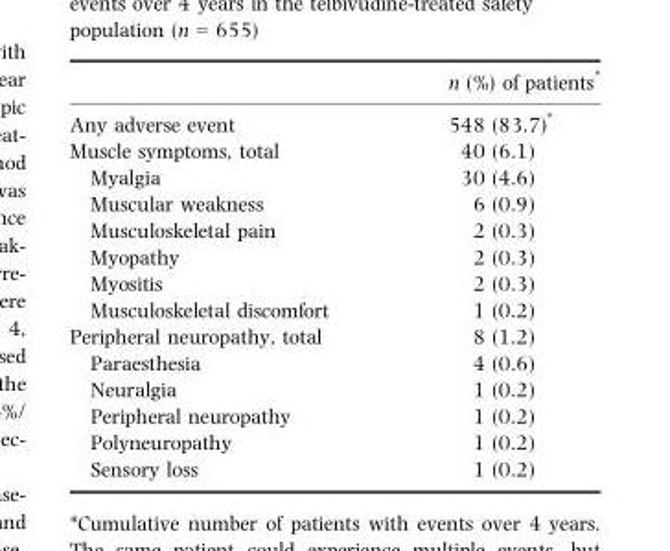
<table><thead><tr><td></td><td>n (%) of patients*</td></tr></thead><tbody><tr><td>Any adverse event</td><td>548 (83.7)*</td></tr><tr><td>Muscle symptoms, total</td><td>40 (6.1)</td></tr><tr><td>Myalgia</td><td>30 (4.6)</td></tr><tr><td>Muscular weakness</td><td>6 (0.9)</td></tr><tr><td>Musculoskeletal pain</td><td>2 (0.3)</td></tr><tr><td>Myopathy</td><td>2 (0.3)</td></tr><tr><td>Myositis</td><td>2 (0.3)</td></tr><tr><td>Musculoskeletal discomfort</td><td>1 (0.2)</td></tr><tr><td>Peripheral neuropathy, total</td><td>8 (1.2)</td></tr><tr><td>Paraesthesia</td><td>4 (0.6)</td></tr><tr><td>Neuralgia</td><td>1 (0.2)</td></tr><tr><td>Peripheral neuropathy</td><td>1 (0.2)</td></tr><tr><td>Polyneuropathy</td><td>1 (0.2)</td></tr><tr><td>Sensory loss</td><td>1 (0.2)</td></tr></tbody></table>